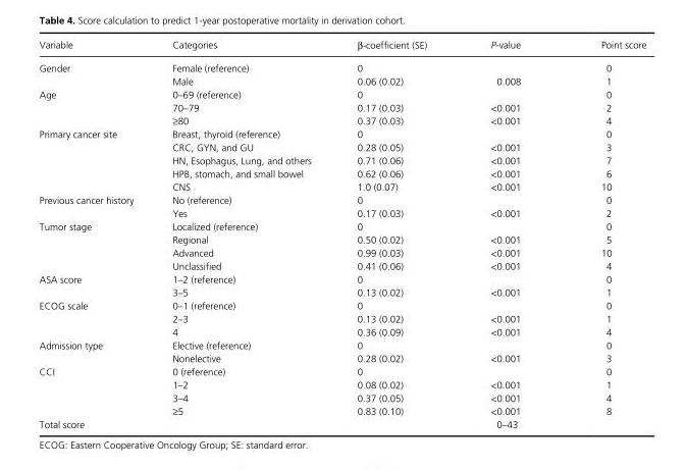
<table><thead><tr><td>Variable</td><td>Categories</td><td>β- coefficient (SE)</td><td>P- value</td><td>Point score</td></tr></thead><tbody><tr><td rowspan="2">Gender</td><td>Female (reference)</td><td>0</td><td></td><td>0</td></tr><tr><td>Male</td><td>0.06 (0.02)</td><td>0.008</td><td>1</td></tr><tr><td rowspan="3">Age</td><td>0–69 (reference)</td><td>0</td><td></td><td>0</td></tr><tr><td>70–79</td><td>0.17 (0.03)</td><td>&lt;0.001</td><td>2</td></tr><tr><td>≥80</td><td>0.37 (0.03)</td><td>&lt;0.001</td><td>4</td></tr><tr><td rowspan="5">Primary cancer site</td><td>Breast, thyroid (reference)</td><td>0</td><td></td><td>0</td></tr><tr><td>CRC, GYN, and GU</td><td>0.28 (0.05)</td><td>&lt;0.001</td><td>3</td></tr><tr><td>HN, Esophagus, Lung, and others</td><td>0.71 (0.06)</td><td>&lt;0.001</td><td>7</td></tr><tr><td>HPB, stomach, and small bowel</td><td>0.62 (0.06)</td><td>&lt;0.001</td><td>6</td></tr><tr><td>CNS</td><td>1.0 (0.07)</td><td>&lt;0.001</td><td>10</td></tr><tr><td rowspan="2">Previous cancer history</td><td>No (reference)</td><td>0</td><td></td><td>0</td></tr><tr><td>Yes</td><td>0.17 (0.03)</td><td>&lt;0.001</td><td>2</td></tr><tr><td rowspan="4">Tumor stage</td><td>Localized (reference)</td><td>0</td><td></td><td>0</td></tr><tr><td>Regional</td><td>0.50 (0.02)</td><td>&lt;0.001</td><td>5</td></tr><tr><td>Advanced</td><td>0.99 (0.03)</td><td>&lt;0.001</td><td>10</td></tr><tr><td>Unclassified</td><td>0.41 (0.06)</td><td>&lt;0.001</td><td>4</td></tr><tr><td rowspan="2">ASA score</td><td>1–2 (reference)</td><td>0</td><td></td><td>0</td></tr><tr><td>3–5</td><td>0.13 (0.02)</td><td>&lt;0.001</td><td>1</td></tr><tr><td rowspan="3">ECOG scale</td><td>0–1 (reference)</td><td>0</td><td></td><td>0</td></tr><tr><td>2–3</td><td>0.13 (0.02)</td><td>&lt;0.001</td><td>1</td></tr><tr><td>4</td><td>0.36 (0.09)</td><td>&lt;0.001</td><td>4</td></tr><tr><td rowspan="2">Admission type</td><td>Elective (reference)</td><td>0</td><td></td><td>0</td></tr><tr><td>Nonelective</td><td>0.28 (0.02)</td><td>&lt;0.001</td><td>3</td></tr><tr><td rowspan="4">CCI</td><td>0 (reference)</td><td>0</td><td></td><td>0</td></tr><tr><td>1–2</td><td>0.08 (0.02)</td><td>&lt;0.001</td><td>1</td></tr><tr><td>3–4</td><td>0.37 (0.05)</td><td>&lt;0.001</td><td>4</td></tr><tr><td>≥5</td><td>0.83 (0.10)</td><td>&lt;0.001</td><td>8</td></tr><tr><td>Total score</td><td></td><td></td><td>0–43</td><td></td></tr></tbody></table>